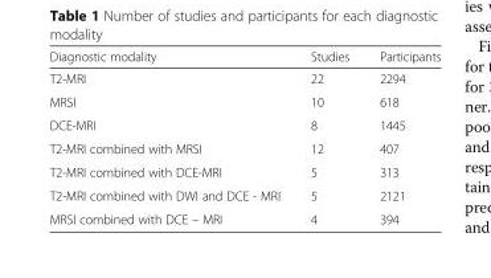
<table><thead><tr><td>Diagnostic modality</td><td>Studies</td><td>Participants</td></tr></thead><tbody><tr><td>T2-MRI</td><td>22</td><td>2294</td></tr><tr><td>MRSI</td><td>10</td><td>618</td></tr><tr><td>DCE-MRI</td><td>8</td><td>1445</td></tr><tr><td>T2-MRI combined with MRSI</td><td>12</td><td>407</td></tr><tr><td>T2-MRI combined with DCE-MRI</td><td>5</td><td>313</td></tr><tr><td>T2-MRI combined with DWI and DCE - MRI</td><td>5</td><td>2121</td></tr><tr><td>MRSI combined with DCE – MRI</td><td>4</td><td>394</td></tr></tbody></table>